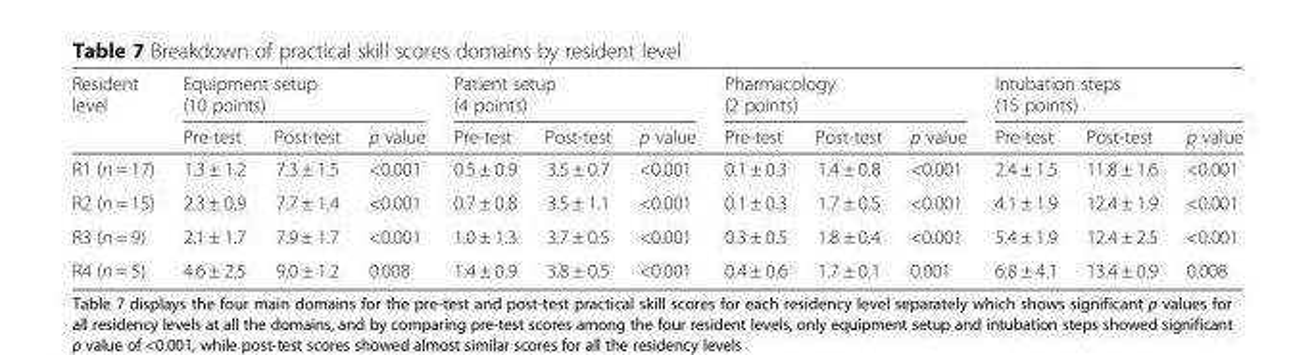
<table><thead><tr><td rowspan="2">Resident level</td><td colspan="3">Equipment setup (10 points)</td><td colspan="3">Patient setup (4 points)</td><td colspan="3">Pharmacology (2 points)</td><td colspan="3">Intubation steps (15 points)</td></tr><tr><td>Pre-test</td><td>Post-test</td><td>p value</td><td>Pre-test</td><td>Post-test</td><td>p value</td><td>Pre-test</td><td>Post-test</td><td>p value</td><td>Pre-test</td><td>Post-test</td><td>p value</td></tr></thead><tbody><tr><td>R1 (n = 17)</td><td>1.3 ± 1.2</td><td>7.3 ± 1.5</td><td>&lt;0.001</td><td>0.5 ± 0.9</td><td>3.5 ± 0.7</td><td>&lt;0.001</td><td>0.1 ± 0.3</td><td>1.4 ± 0.8</td><td>&lt;0.001</td><td>2.4 ± 1.5</td><td>11.8 ± 1.6</td><td>&lt;0.001</td></tr><tr><td>R2 (n = 15)</td><td>2.3 ± 0.9</td><td>7.7 ± 1.4</td><td>&lt;0.001</td><td>0.7 ± 0.8</td><td>3.5 ± 1.1</td><td>&lt;0.001</td><td>0.1 ± 0.3</td><td>1.7 ± 0.5</td><td>&lt;0.001</td><td>4.1 ± 1.9</td><td>12.4 ± 1.9</td><td>&lt;0.001</td></tr><tr><td>R3 (n = 9)</td><td>2.1 ± 1.7</td><td>7.9 ± 1.7</td><td>&lt;0.001</td><td>1.0 ± 1.3</td><td>3.7 ± 0.5</td><td>&lt;0.001</td><td>0.3 ± 0.5</td><td>1.8 ± 0.4</td><td>&lt;0.001</td><td>5.4 ± 1.9</td><td>12.4 ± 2.5</td><td>&lt;0.001</td></tr><tr><td>R4 (n = 5)</td><td>4.6 ± 2.5</td><td>9.0 ± 1.2</td><td>0.008</td><td>1.4 ± 0.9</td><td>3.8 ± 0.5</td><td>&lt;0.001</td><td>0.4 ± 0.6</td><td>1.7 ± 0.1</td><td>0.001</td><td>6.8 ± 4.1</td><td>13.4 ± 0.9</td><td>0.008</td></tr></tbody></table>